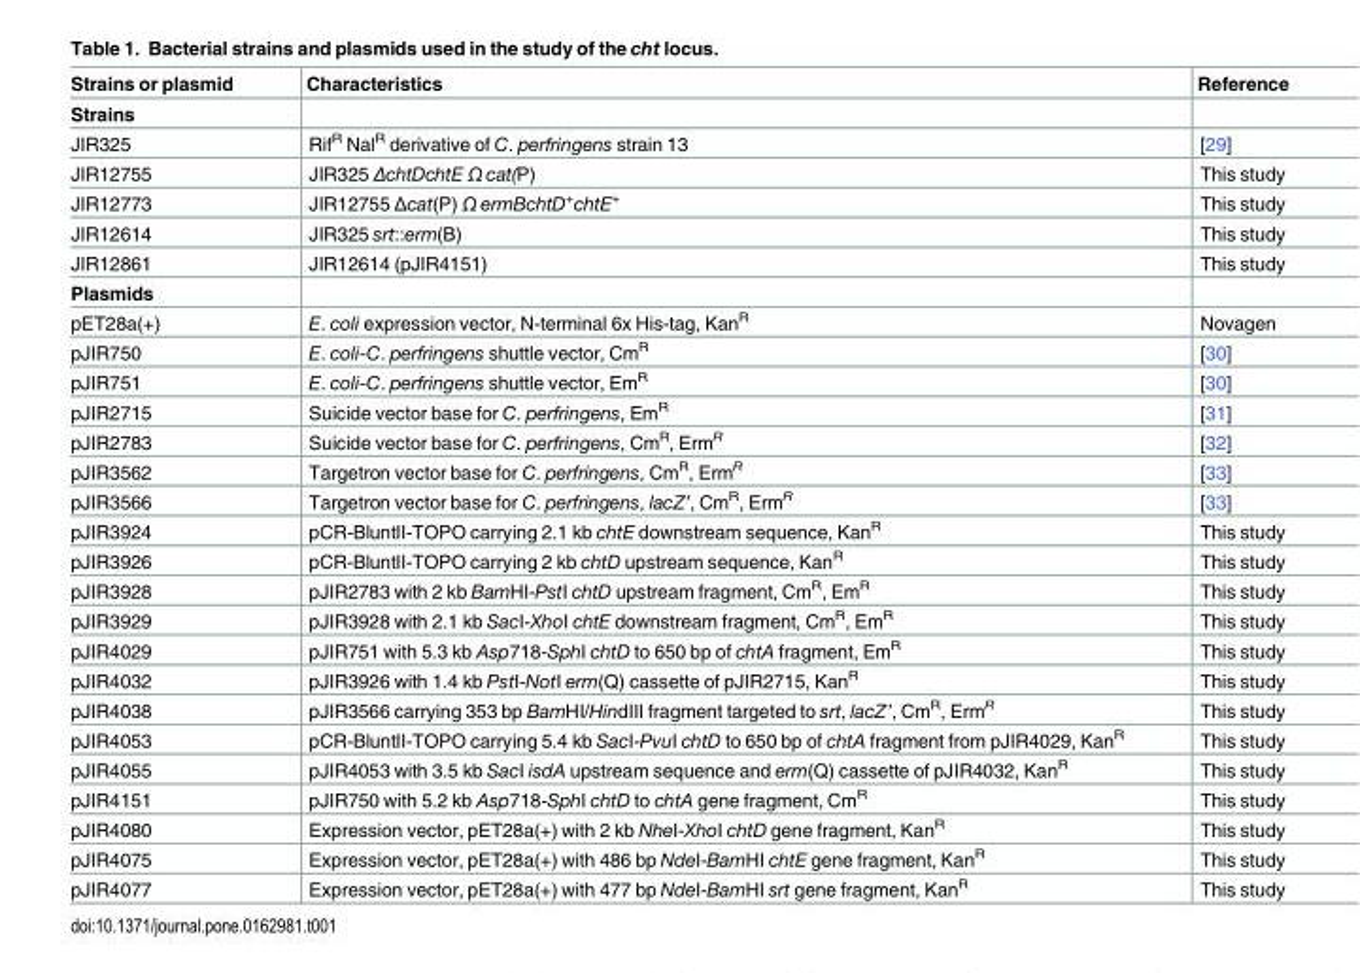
<table><thead><tr><td>Strains or plasmid</td><td>Characteristics</td><td>Reference</td></tr></thead><tbody><tr><td colspan="3">Strains</td></tr><tr><td>JIR325</td><td>Rif<sup>R</sup> Nal<sup>R</sup> derivative of C. perfringens strain 13</td><td>[29]</td></tr><tr><td>JIR12755</td><td>JIR325 ΔchtDchtE Ω cat(P)</td><td>This study</td></tr><tr><td>JIR12773</td><td>JIR12755 Δcat(P) Ω ermBchtD<sup>+</sup>chtE<sup>+</sup></td><td>This study</td></tr><tr><td>JIR12614</td><td>JIR325 srt::erm(B)</td><td>This study</td></tr><tr><td>JIR12861</td><td>JIR12614 (pJIR4151)</td><td>This study</td></tr><tr><td colspan="3">Plasmids</td></tr><tr><td>pET28a(+)</td><td>E. coli expression vector, N-terminal 6x His-tag, Kan<sup>R</sup></td><td>Novagen</td></tr><tr><td>pJIR750</td><td>E. coli-C. perfringens shuttle vector, Cm<sup>R</sup></td><td>[30]</td></tr><tr><td>pJIR751</td><td>E. coli-C. perfringens shuttle vector, Em<sup>R</sup></td><td>[30]</td></tr><tr><td>pJIR2715</td><td>Suicide vector base for C. perfringens, Em<sup>R</sup></td><td>[31]</td></tr><tr><td>pJIR2783</td><td>Suicide vector base for C. perfringens, Cm<sup>R</sup>, Erm<sup>R</sup></td><td>[32]</td></tr><tr><td>pJIR3562</td><td>Targetron vector base for C. perfringens, Cm<sup>R</sup>, Erm<sup>R</sup></td><td>[33]</td></tr><tr><td>pJIR3566</td><td>Targetron vector base for C. perfringens, lacZ’, Cm<sup>R</sup>, Erm<sup>R</sup></td><td>[33]</td></tr><tr><td>pJIR3924</td><td>pCR-BluntII-TOPO carrying 2.1 kb chtE downstream sequence, Kan<sup>R</sup></td><td>This study</td></tr><tr><td>pJIR3926</td><td>pCR-BluntII-TOPO carrying 2 kb chtD upstream sequence, Kan<sup>R</sup></td><td>This study</td></tr><tr><td>pJIR3928</td><td>pJIR2783 with 2 kb BamHI-PstI chtD upstream fragment, Cm<sup>R</sup>, Em<sup>R</sup></td><td>This study</td></tr><tr><td>pJIR3929</td><td>pJIR3928 with 2.1 kb SacI-XhoI chtE downstream fragment, Cm<sup>R</sup>, Em<sup>R</sup></td><td>This study</td></tr><tr><td>pJIR4029</td><td>pJIR751 with 5.3 kb Asp718-SphI chtD to 650 bp of chtA fragment, Em<sup>R</sup></td><td>This study</td></tr><tr><td>pJIR4032</td><td>pJIR3926 with 1.4 kb PstI-NotI erm(Q) cassette of pJIR2715, Kan<sup>R</sup></td><td>This study</td></tr><tr><td>pJIR4038</td><td>pJIR3566 carrying 353 bp BamHI/HindIII fragment targeted to srt, lacZ’, Cm<sup>R</sup>, Erm<sup>R</sup></td><td>This study</td></tr><tr><td>pJIR4053</td><td>pCR-BluntII-TOPO carrying 5.4 kb SacI-PvuI chtD to 650 bp of chtA fragment from pJIR4029, Kan<sup>R</sup></td><td>This study</td></tr><tr><td>pJIR4055</td><td>pJIR4053 with 3.5 kb SacI isdA upstream sequence and erm(Q) cassette of pJIR4032, Kan<sup>R</sup></td><td>This study</td></tr><tr><td>pJIR4151</td><td>pJIR750 with 5.2 kb Asp718-SphI chtD to chtA gene fragment, Cm<sup>R</sup></td><td>This study</td></tr><tr><td>pJIR4080</td><td>Expression vector, pET28a(+) with 2 kb NheI-XhoI chtD gene fragment, Kan<sup>R</sup></td><td>This study</td></tr><tr><td>pJIR4075</td><td>Expression vector, pET28a(+) with 486 bp NdeI-BamHI chtE gene fragment, Kan<sup>R</sup></td><td>This study</td></tr><tr><td>pJIR4077</td><td>Expression vector, pET28a(+) with 477 bp NdeI-BamHI srt gene fragment, Kan<sup>R</sup></td><td>This study</td></tr></tbody></table>